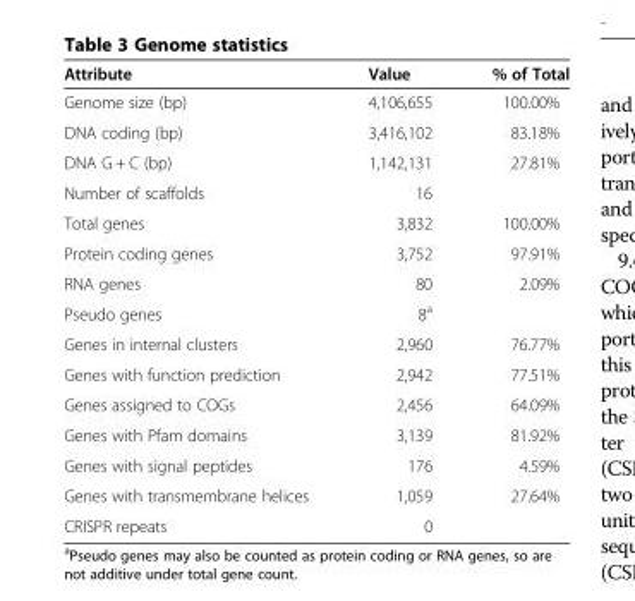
<table><thead><tr><td>Attribute</td><td>Value</td><td>% of Total</td></tr></thead><tbody><tr><td>Genome size (bp)</td><td>4,106,655</td><td>100.00%</td></tr><tr><td>DNA coding (bp)</td><td>3,416,102</td><td>83.18%</td></tr><tr><td>DNA G + C (bp)</td><td>1,142,131</td><td>27.81%</td></tr><tr><td>Number of scaffolds</td><td>16</td><td></td></tr><tr><td>Total genes</td><td>3,832</td><td>100.00%</td></tr><tr><td>Protein coding genes</td><td>3,752</td><td>97.91%</td></tr><tr><td>RNA genes</td><td>80</td><td>2.09%</td></tr><tr><td>Pseudo genes</td><td>8<sup>a</sup></td><td></td></tr><tr><td>Genes in internal clusters</td><td>2,960</td><td>76.77%</td></tr><tr><td>Genes with function prediction</td><td>2,942</td><td>77.51%</td></tr><tr><td>Genes assigned to COGs</td><td>2,456</td><td>64.09%</td></tr><tr><td>Genes with Pfam domains</td><td>3,139</td><td>81.92%</td></tr><tr><td>Genes with signal peptides</td><td>176</td><td>4.59%</td></tr><tr><td>Genes with transmembrane helices</td><td>1,059</td><td>27.64%</td></tr><tr><td>CRISPR repeats</td><td>0</td><td></td></tr></tbody></table>